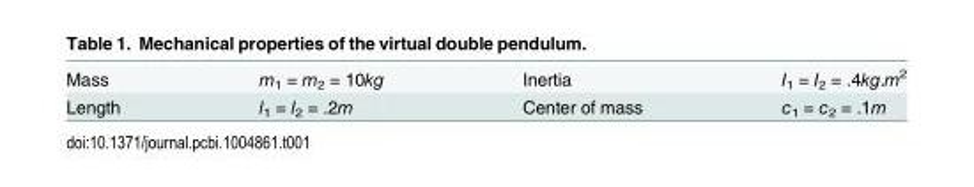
<table><tbody><tr><td>Mass</td><td>m<sub>1</sub> = m<sub>2</sub> = 10kg</td><td>Inertia</td><td>I<sub>1</sub> = I<sub>2</sub> = .4kg.m<sup>2</sup></td></tr><tr><td>Length</td><td>l<sub>1</sub> = l<sub>2</sub> = .2m</td><td>Center of mass</td><td>c<sub>1</sub> = c<sub>2</sub> = .1m</td></tr></tbody></table>